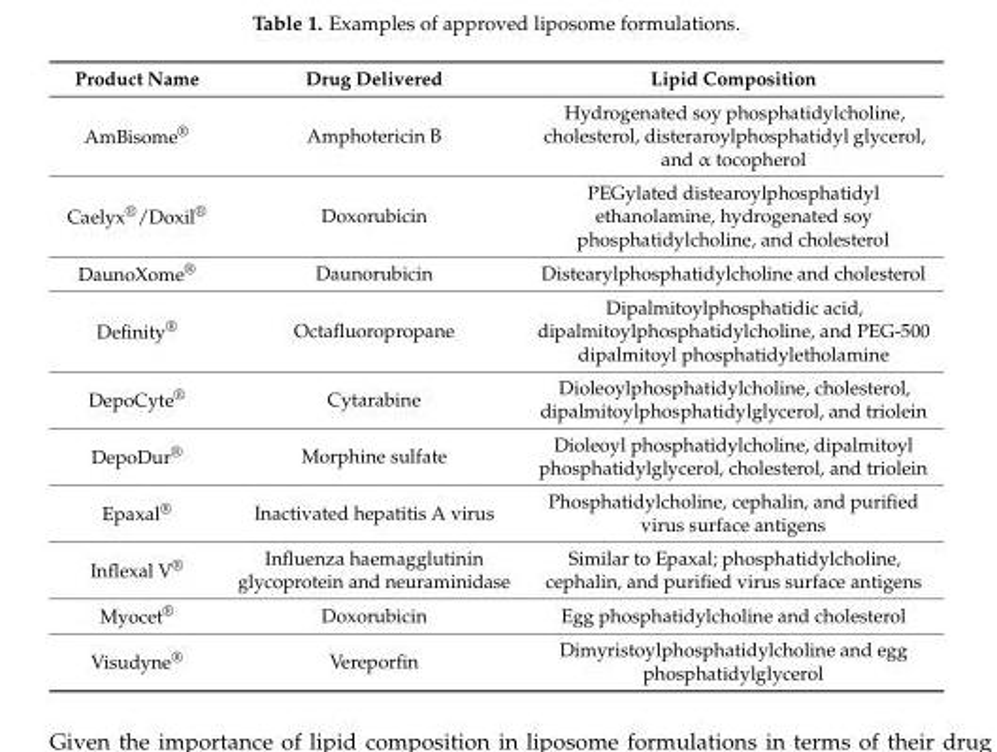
<table><thead><tr><td>Product Name</td><td>Drug Delivered</td><td>Lipid Composition</td></tr></thead><tbody><tr><td>AmBisome<sup>®</sup></td><td>Amphotericin B</td><td>Hydrogenated soy phosphatidylcholine, cholesterol, disteraroylphosphatidyl glycerol, and α tocopherol</td></tr><tr><td>Caelyx<sup>®</sup>/Doxil<sup>®</sup></td><td>Doxorubicin</td><td>PEGylated distearoylphosphatidyl ethanolamine, hydrogenated soy phosphatidylcholine, and cholesterol</td></tr><tr><td>DaunoXome<sup>®</sup></td><td>Daunorubicin</td><td>Distearylphosphatidylcholine and cholesterol</td></tr><tr><td>Definity<sup>®</sup></td><td>Octafluoropropane</td><td>Dipalmitoylphosphatidic acid, dipalmitoylphosphatidylcholine, and PEG-500 dipalmitoyl phosphatidyletholamine</td></tr><tr><td>DepoCyte<sup>®</sup></td><td>Cytarabine</td><td>Dioleoylphosphatidylcholine, cholesterol, dipalmitoylphosphatidylglycerol, and triolein</td></tr><tr><td>DepoDur<sup>®</sup></td><td>Morphine sulfate</td><td>Dioleoyl phosphatidylcholine, dipalmitoyl phosphatidylglycerol, cholesterol, and triolein</td></tr><tr><td>Epaxal<sup>®</sup></td><td>Inactivated hepatitis A virus</td><td>Phosphatidylcholine, cephalin, and purified virus surface antigens</td></tr><tr><td>Inflexal V<sup>®</sup></td><td>Influenza haemagglutinin glycoprotein and neuraminidase</td><td>Similar to Epaxal; phosphatidylcholine, cephalin, and purified virus surface antigens</td></tr><tr><td>Myocet<sup>®</sup></td><td>Doxorubicin</td><td>Egg phosphatidylcholine and cholesterol</td></tr><tr><td>Visudyne<sup>®</sup></td><td>Vereporfin</td><td>Dimyristoylphosphatidylcholine and egg phosphatidylglycerol</td></tr></tbody></table>